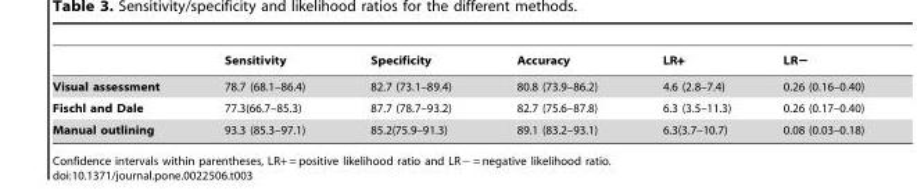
<table><thead><tr><td></td><td>Sensitivity</td><td>Specificity</td><td>Accuracy</td><td>LR+</td><td>LR−</td></tr></thead><tbody><tr><td>Visual assessment</td><td>78.7 (68.1–86.4)</td><td>82.7 (73.1–89.4)</td><td>80.8 (73.9–86.2)</td><td>4.6 (2.8–7.4)</td><td>0.26 (0.16–0.40)</td></tr><tr><td>Fischl and Dale</td><td>77.3(66.7–85.3)</td><td>87.7 (78.7–93.2)</td><td>82.7 (75.6–87.8)</td><td>6.3 (3.5–11.3)</td><td>0.26 (0.17–0.40)</td></tr><tr><td>Manual outlining</td><td>93.3 (85.3–97.1)</td><td>85.2(75.9–91.3)</td><td>89.1 (83.2–93.1)</td><td>6.3(3.7–10.7)</td><td>0.08 (0.03–0.18)</td></tr></tbody></table>